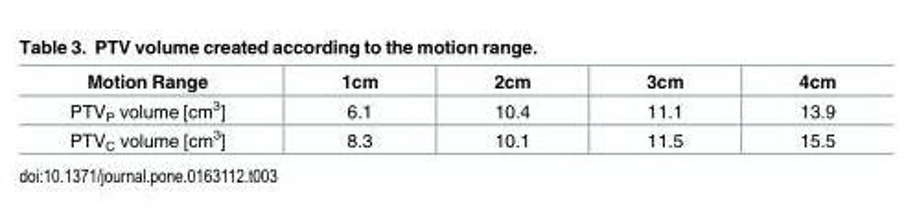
<table><thead><tr><td>Motion Range</td><td>1cm</td><td>2cm</td><td>3cm</td><td>4cm</td></tr></thead><tbody><tr><td>PTV<sub>P</sub> volume [cm<sup>3</sup>]</td><td>6.1</td><td>10.4</td><td>11.1</td><td>13.9</td></tr><tr><td>PTV<sub>C</sub> volume [cm<sup>3</sup>]</td><td>8.3</td><td>10.1</td><td>11.5</td><td>15.5</td></tr></tbody></table>